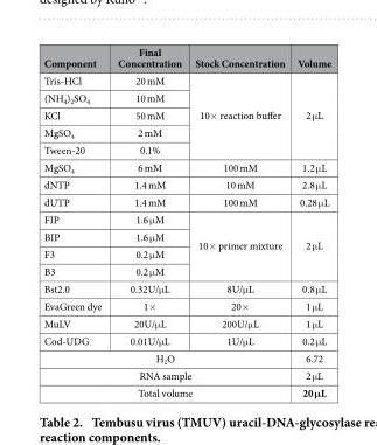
<table><thead><tr><td>Component</td><td>Final Concentration</td><td>Stock Concentration</td><td>Volume</td></tr></thead><tbody><tr><td>Tris-HCl</td><td>20 mM</td><td rowspan="5">10× reaction buffer</td><td rowspan="5">2 μ L</td></tr><tr><td>(NH<sub>4</sub>)<sub>2</sub>SO<sub>4</sub></td><td>10 mM</td></tr><tr><td>KCl</td><td>50 mM</td></tr><tr><td>MgSO<sub>4</sub></td><td>2 mM</td></tr><tr><td>Tween-20</td><td>0.1%</td></tr><tr><td>MgSO<sub>4</sub></td><td>6 mM</td><td>100 mM</td><td>1.2 μ L</td></tr><tr><td>dNTP</td><td>1.4 mM</td><td>10 mM</td><td>2.8 μ L</td></tr><tr><td>dUTP</td><td>1.4 mM</td><td>100 mM</td><td>0.28 μ L</td></tr><tr><td>FIP</td><td>1.6 μ M</td><td rowspan="4">10× primer mixture</td><td rowspan="4">2 μ L</td></tr><tr><td>BIP</td><td>1.6 μ M</td></tr><tr><td>F3</td><td>0.2 μ M</td></tr><tr><td>B3</td><td>0.2 μ M</td></tr><tr><td>Bst2.0</td><td>0.32U/μ L</td><td>8U/μ L</td><td>0.8 μ L</td></tr><tr><td>EvaGreen dye</td><td>1×</td><td>20×</td><td>1 μ L</td></tr><tr><td>MuLV</td><td>20U/μ L</td><td>200U/μ L</td><td>1 μ L</td></tr><tr><td>Cod-UDG</td><td>0.01U/μ L</td><td>1U/μ L</td><td>0.2 μ L</td></tr><tr><td colspan="3">H<sub>2</sub>O</td><td>6.72</td></tr><tr><td colspan="3">RNA sample</td><td>2 μ L</td></tr><tr><td colspan="3">Total volume</td><td>20 μL</td></tr></tbody></table>